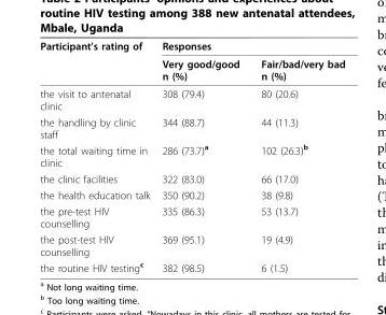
<table><thead><tr><td rowspan="2">Participant’s rating of</td><td colspan="2">Responses</td></tr><tr><td>Very good/good n (%)</td><td>Fair/bad/very bad n (%)</td></tr></thead><tbody><tr><td>the visit to antenatal clinic</td><td>308 (79.4)</td><td>80 (20.6)</td></tr><tr><td>the handling by clinic staff</td><td>344 (88.7)</td><td>44 (11.3)</td></tr><tr><td>the total waiting time in clinic</td><td>286 (73.7)<sup>a</sup></td><td>102 (26.3)<sup>b</sup></td></tr><tr><td>the clinic facilities</td><td>322 (83.0)</td><td>66 (17.0)</td></tr><tr><td>the health education talk</td><td>350 (90.2)</td><td>38 (9.8)</td></tr><tr><td>the pre-test HIV counselling</td><td>335 (86.3)</td><td>53 (13.7)</td></tr><tr><td>the post-test HIV counselling</td><td>369 (95.1)</td><td>19 (4.9)</td></tr><tr><td>the routine HIV testing<sup>c</sup></td><td>382 (98.5)</td><td>6 (1.5)</td></tr></tbody></table>